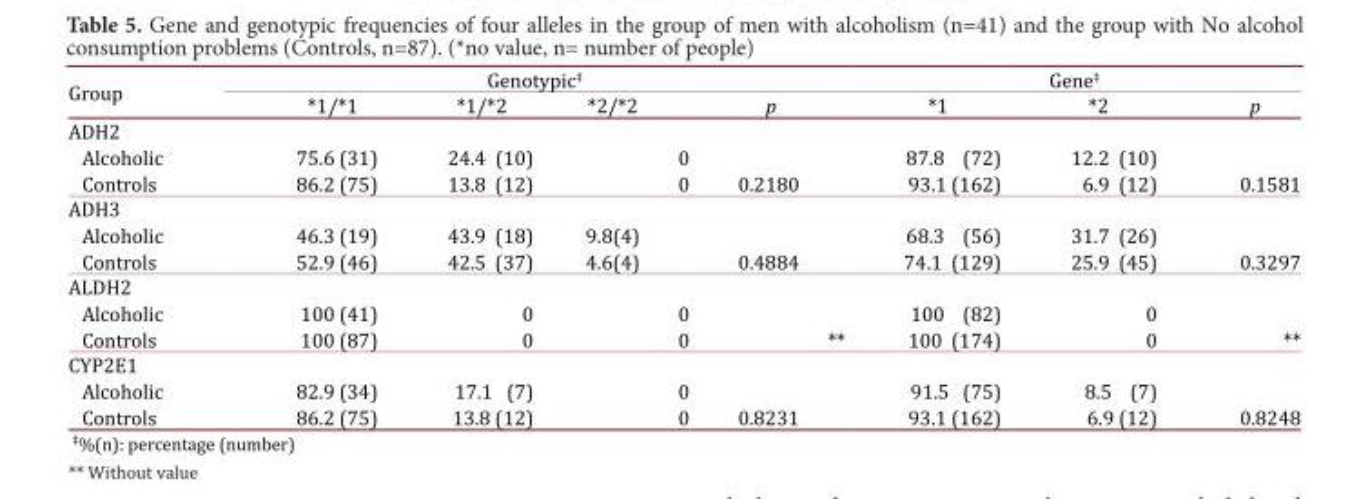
<table><thead><tr><td rowspan="2">Group</td><td colspan="4">Genotypic‡</td><td colspan="3">Gene‡</td></tr><tr><td>*1/*1</td><td>*1/*2</td><td>*2/*2</td><td>p</td><td>*1</td><td>*2</td><td>p</td></tr></thead><tbody><tr><td colspan="8">ADH2</td></tr><tr><td>Alcoholic</td><td>75.6 (31)</td><td>24.4 (10)</td><td>0</td><td></td><td>87.8 (72)</td><td>12.2 (10)</td><td></td></tr><tr><td>Controls</td><td>86.2 (75)</td><td>13.8 (12)</td><td>0</td><td>0.2180</td><td>93.1 (162)</td><td>6.9 (12)</td><td>0.1581</td></tr><tr><td colspan="8">ADH3</td></tr><tr><td>Alcoholic</td><td>46.3 (19)</td><td>43.9 (18)</td><td>9.8(4)</td><td></td><td>68.3 (56)</td><td>31.7 (26)</td><td></td></tr><tr><td>Controls</td><td>52.9 (46)</td><td>42.5 (37)</td><td>4.6(4)</td><td>0.4884</td><td>74.1 (129)</td><td>25.9 (45)</td><td>0.3297</td></tr><tr><td colspan="8">ALDH2</td></tr><tr><td>Alcoholic</td><td>100 (41)</td><td>0</td><td>0</td><td></td><td>100 (82)</td><td>0</td><td></td></tr><tr><td>Controls</td><td>100 (87)</td><td>0</td><td>0</td><td>**</td><td>100 (174)</td><td>0</td><td>**</td></tr><tr><td colspan="8">CYP2E1</td></tr><tr><td>Alcoholic</td><td>82.9 (34)</td><td>17.1 (7)</td><td>0</td><td></td><td>91.5 (75)</td><td>8.5 (7)</td><td></td></tr><tr><td>Controls</td><td>86.2 (75)</td><td>13.8 (12)</td><td>0</td><td>0.8231</td><td>93.1 (162)</td><td>6.9 (12)</td><td>0.8248</td></tr></tbody></table>